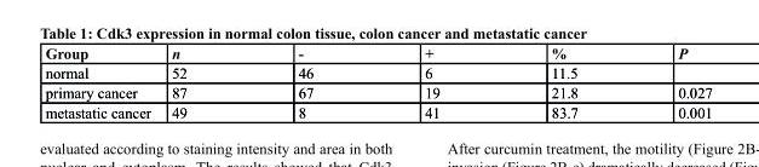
<table><thead><tr><td>Group</td><td>n</td><td>-</td><td>+</td><td>%</td><td>P</td></tr></thead><tbody><tr><td>normal</td><td>52</td><td>46</td><td>6</td><td>11.5</td><td></td></tr><tr><td>primary cancer</td><td>87</td><td>67</td><td>19</td><td>21.8</td><td>0.027</td></tr><tr><td>metastatic cancer</td><td>49</td><td>8</td><td>41</td><td>83.7</td><td>0.001</td></tr></tbody></table>